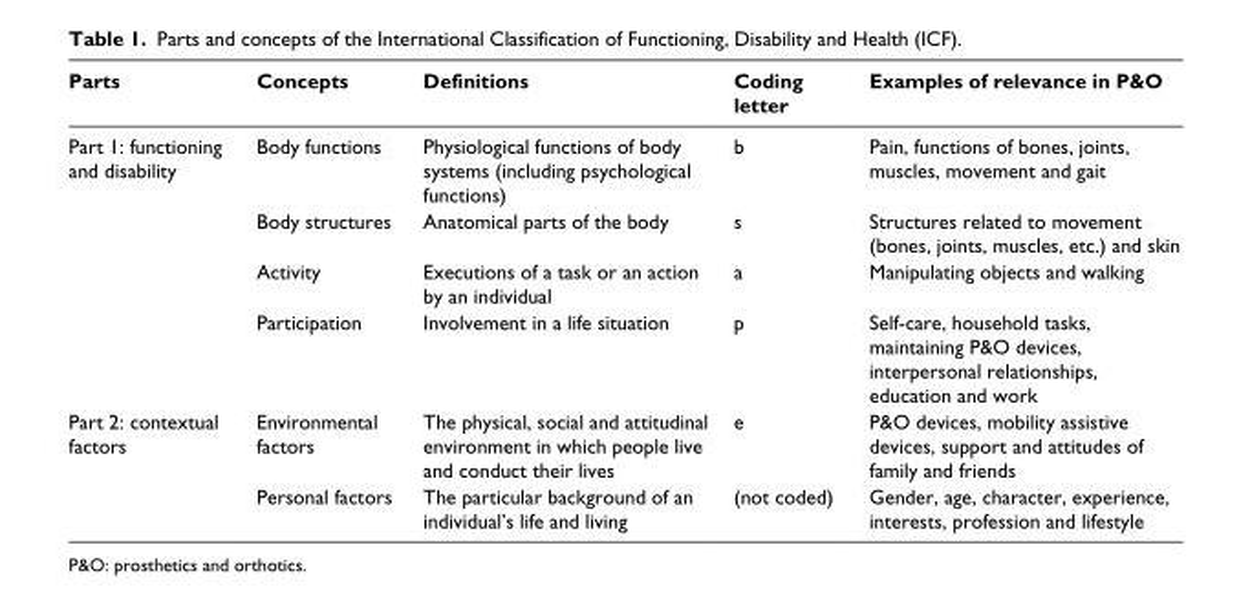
<table><thead><tr><td>Parts</td><td>Concepts</td><td>Definitions</td><td>Coding letter</td><td>Examples of relevance in P&amp;O</td></tr></thead><tbody><tr><td rowspan="4">Part 1: functioning and disability</td><td>Body functions</td><td>Physiological functions of body systems (including psychological functions)</td><td>b</td><td>Pain, functions of bones, joints, muscles, movement and gait</td></tr><tr><td>Body structures</td><td>Anatomical parts of the body</td><td>s</td><td>Structures related to movement (bones, joints, muscles, etc.) and skin</td></tr><tr><td>Activity</td><td>Executions of a task or an action by an individual</td><td>a</td><td>Manipulating objects and walking</td></tr><tr><td>Participation</td><td>Involvement in a life situation</td><td>p</td><td>Self-care, household tasks, maintaining P&amp;O devices, interpersonal relationships, education and work</td></tr><tr><td rowspan="2">Part 2: contextual factors</td><td>Environmental factors</td><td>The physical, social and attitudinal environment in which people live and conduct their lives</td><td>e</td><td>P&amp;O devices, mobility assistive devices, support and attitudes of family and friends</td></tr><tr><td>Personal factors</td><td>The particular background of an individual’s life and living</td><td>(not coded)</td><td>Gender, age, character, experience, interests, profession and lifestyle</td></tr></tbody></table>